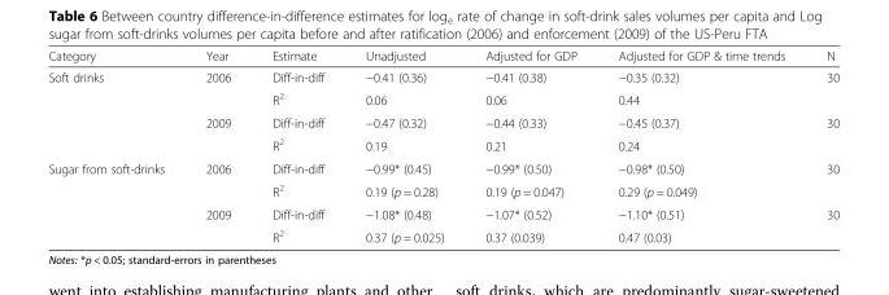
<table><thead><tr><td>Category</td><td>Year</td><td>Estimate</td><td>Unadjusted</td><td>Adjusted for GDP</td><td>Adjusted for GDP &amp; time trends</td><td>N</td></tr></thead><tbody><tr><td rowspan="4">Soft drinks</td><td rowspan="2">2006</td><td>Diff-in-diff</td><td>−0.41 (0.36)</td><td>−0.41 (0.38)</td><td>−0.35 (0.32)</td><td rowspan="2">30</td></tr><tr><td>R<sup>2</sup></td><td>0.06</td><td>0.06</td><td>0.44</td></tr><tr><td rowspan="2">2009</td><td>Diff-in-diff</td><td>−0.47 (0.32)</td><td>−0.44 (0.33)</td><td>−0.45 (0.37)</td><td rowspan="2">30</td></tr><tr><td>R<sup>2</sup></td><td>0.19</td><td>0.21</td><td>0.24</td></tr><tr><td rowspan="4">Sugar from soft-drinks</td><td rowspan="2">2006</td><td>Diff-in-diff</td><td>−0.99* (0.45)</td><td>−0.99* (0.50)</td><td>−0.98* (0.50)</td><td rowspan="2">30</td></tr><tr><td>R<sup>2</sup></td><td>0.19 (p = 0.28)</td><td>0.19 (p = 0.047)</td><td>0.29 (p = 0.049)</td></tr><tr><td rowspan="2">2009</td><td>Diff-in-diff</td><td>−1.08* (0.48)</td><td>−1.07* (0.52)</td><td>−1.10* (0.51)</td><td rowspan="2">30</td></tr><tr><td>R<sup>2</sup></td><td>0.37 (p = 0.025)</td><td>0.37 (0.039)</td><td>0.47 (0.03)</td></tr></tbody></table>